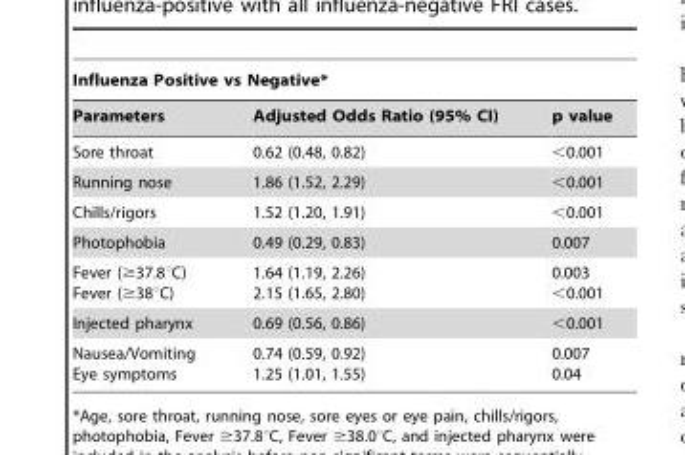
<table><thead><tr><td colspan="3">Influenza Positive vs Negative*</td></tr><tr><td>Parameters</td><td>Adjusted Odds Ratio (95% CI)</td><td>p value</td></tr></thead><tbody><tr><td>Sore throat</td><td>0.62 (0.48, 0.82)</td><td>&lt;0.001</td></tr><tr><td>Running nose</td><td>1.86 (1.52, 2.29)</td><td>&lt;0.001</td></tr><tr><td>Chills/rigors</td><td>1.52 (1.20, 1.91)</td><td>&lt;0.001</td></tr><tr><td>Photophobia</td><td>0.49 (0.29, 0.83)</td><td>0.007</td></tr><tr><td>Fever (≥37.8°C) Fever (≥38°C)</td><td>1.64 (1.19, 2.26) 2.15 (1.65, 2.80)</td><td>0.003 &lt;0.001</td></tr><tr><td>Injected pharynx</td><td>0.69 (0.56, 0.86)</td><td>&lt;0.001</td></tr><tr><td>Nausea/Vomiting Eye symptoms</td><td>0.74 (0.59, 0.92) 1.25 (1.01, 1.55)</td><td>0.007 0.04</td></tr></tbody></table>